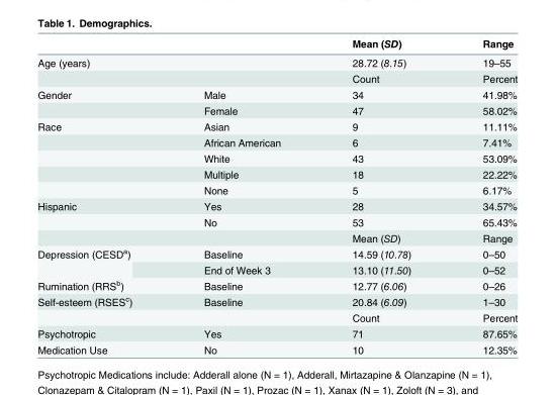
<table><thead><tr><td></td><td></td><td>Mean (SD)</td><td>Range</td></tr></thead><tbody><tr><td rowspan="2">Age (years)</td><td></td><td>28.72 (8.15)</td><td>19–55</td></tr><tr><td></td><td>Count</td><td>Percent</td></tr><tr><td rowspan="2">Gender</td><td>Male</td><td>34</td><td>41.98%</td></tr><tr><td>Female</td><td>47</td><td>58.02%</td></tr><tr><td rowspan="5">Race</td><td>Asian</td><td>9</td><td>11.11%</td></tr><tr><td>African American</td><td>6</td><td>7.41%</td></tr><tr><td>White</td><td>43</td><td>53.09%</td></tr><tr><td>Multiple</td><td>18</td><td>22.22%</td></tr><tr><td>None</td><td>5</td><td>6.17%</td></tr><tr><td rowspan="3">Hispanic</td><td>Yes</td><td>28</td><td>34.57%</td></tr><tr><td>No</td><td>53</td><td>65.43%</td></tr><tr><td></td><td>Mean (SD)</td><td>Range</td></tr><tr><td rowspan="2">Depression (CESD<sup>a</sup>)</td><td>Baseline</td><td>14.59 (10.78)</td><td>0–50</td></tr><tr><td>End of Week 3</td><td>13.10 (11.50)</td><td>0–52</td></tr><tr><td>Rumination (RRS<sup>b</sup>)</td><td>Baseline</td><td>12.77 (6.06)</td><td>0–26</td></tr><tr><td rowspan="2">Self-esteem (RSES<sup>c</sup>)</td><td>Baseline</td><td>20.84 (6.09)</td><td>1–30</td></tr><tr><td></td><td>Count</td><td>Percent</td></tr><tr><td>Psychotropic</td><td>Yes</td><td>71</td><td>87.65%</td></tr><tr><td>Medication Use</td><td>No</td><td>10</td><td>12.35%</td></tr></tbody></table>